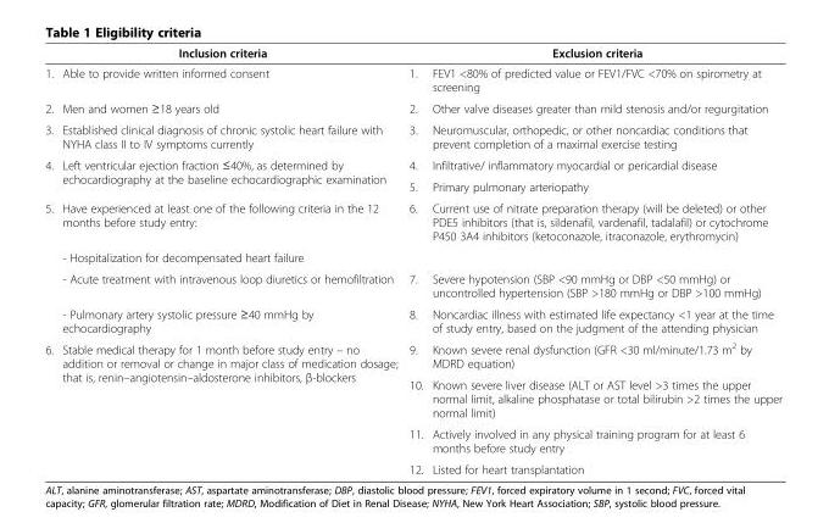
<table><thead><tr><td>Inclusion criteria</td><td>Exclusion criteria</td></tr></thead><tbody><tr><td>1. Able to provide written informed consent</td><td>1. FEV1 &lt;80% of predicted value or FEV1/FVC &lt;70% on spirometry at screening</td></tr><tr><td>2. Men and women ≥18 years old</td><td>2. Other valve diseases greater than mild stenosis and/or regurgitation</td></tr><tr><td>3. Established clinical diagnosis of chronic systolic heart failure with NYHA class II to IV symptoms currently</td><td>3. Neuromuscular, orthopedic, or other noncardiac conditions that prevent completion of a maximal exercise testing</td></tr><tr><td rowspan="2">4. Left ventricular ejection fraction ≤40%, as determined by echocardiography at the baseline echocardiographic examination</td><td>4. Infiltrative/ inflammatory myocardial or pericardial disease</td></tr><tr><td>5. Primary pulmonary arteriopathy</td></tr><tr><td>5. Have experienced at least one of the following criteria in the 12 months before study entry:</td><td>6. Current use of nitrate preparation therapy (will be deleted) or other PDE5 inhibitors (that is, sildenafil, vardenafil, tadalafil) or cytochrome P450 3A4 inhibitors (ketoconazole, itraconazole, erythromycin)</td></tr><tr><td colspan="2">- Hospitalization for decompensated heart failure</td></tr><tr><td>- Acute treatment with intravenous loop diuretics or hemofiltration</td><td>7. Severe hypotension (SBP &lt;90 mmHg or DBP &lt;50 mmHg) or uncontrolled hypertension (SBP &gt;180 mmHg or DBP &gt;100 mmHg)</td></tr><tr><td>- Pulmonary artery systolic pressure ≥40 mmHg by echocardiography</td><td>8. Noncardiac illness with estimated life expectancy &lt;1 year at the time of study entry, based on the judgment of the attending physician</td></tr><tr><td rowspan="4">6. Stable medical therapy for 1 month before study entry – no addition or removal or change in major class of medication dosage; that is, renin–angiotensin–aldosterone inhibitors, β-blockers</td><td>9. Known severe renal dysfunction (GFR &lt;30 ml/minute/1.73 m<sup>2</sup> by MDRD equation)</td></tr><tr><td>10. Known severe liver disease (ALT or AST level &gt;3 times the upper normal limit, alkaline phosphatase or total bilirubin &gt;2 times the upper normal limit)</td></tr><tr><td>11. Actively involved in any physical training program for at least 6 months before study entry</td></tr><tr><td>12. Listed for heart transplantation</td></tr></tbody></table>